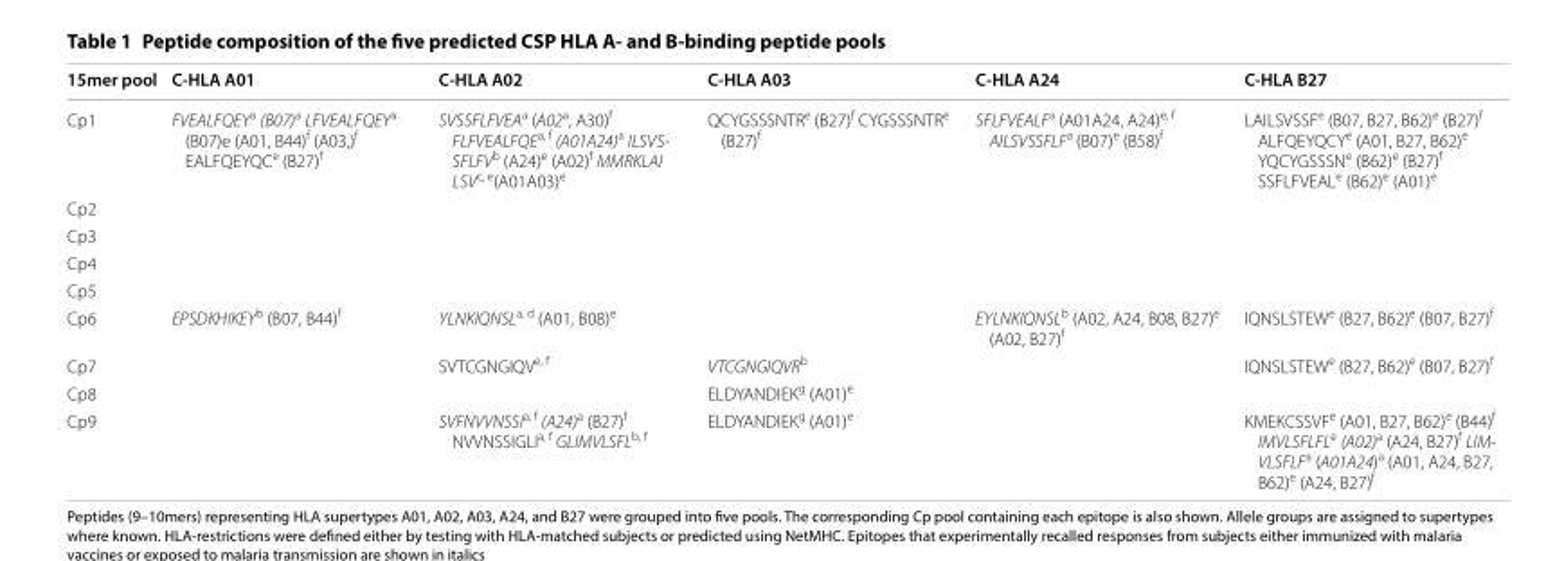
<table><thead><tr><td>15mer pool</td><td>C‑HLA A01</td><td>C‑HLA A02</td><td>C‑HLA A03</td><td>C‑HLA A24</td><td>C‑HLA B27</td></tr></thead><tbody><tr><td>Cp1</td><td>FVEALFQEY<sup>a</sup> (B07)<sup>a</sup> LFVEALFQEY<sup>a</sup> (B07)e (A01, B44)<sup>f</sup> (A03,)<sup>f</sup> EALFQEYQC<sup>e</sup> (B27)<sup>f</sup></td><td>SVSSFLFVEAa (A02a, A30)f FLFVEALFQEa, f (A01A24)a ILSVS- SFLFVb (A24)e (A02)f MMRKLAI LSVc, e(A01A03)e</td><td>QCYGSSSNTR<sup>e</sup> (B27)<sup>f</sup> CYGSSSNTR<sup>e</sup> (B27)<sup>f</sup></td><td>SFLFVEALF<sup>a</sup> (A01A24, A24)<sup>e, f</sup> AILSVSSFLF<sup>a</sup> (B07)<sup>e</sup> (B58)<sup>f</sup></td><td>LAILSVSSF<sup>e</sup> (B07, B27, B62)<sup>e</sup> (B27)<sup>f</sup> ALFQEYQCY<sup>e</sup> (A01, B27, B62)<sup>e</sup> YQCYGSSSN<sup>e</sup> (B62)<sup>e</sup> (B27)<sup>f</sup> SSFLFVEAL<sup>e</sup> (B62)<sup>e</sup> (A01)<sup>e</sup></td></tr><tr><td colspan="6">Cp2</td></tr><tr><td colspan="6">Cp3</td></tr><tr><td colspan="6">Cp4</td></tr><tr><td colspan="6">Cp5</td></tr><tr><td>Cp6</td><td>EPSDKHIKEY<sup>b</sup> (B07, B44)<sup>f</sup></td><td>YLNKIQNSL<sup>a, d</sup> (A01, B08)<sup>e</sup></td><td></td><td>EYLNKIQNSL<sup>b</sup> (A02, A24, B08, B27)<sup>e</sup> (A02, B27)<sup>f</sup></td><td>IQNSLSTEW<sup>e</sup> (B27, B62)<sup>e</sup> (B07, B27)<sup>f</sup></td></tr><tr><td>Cp7</td><td></td><td>SVTCGNGIQV<sup>e, f</sup></td><td>VTCGNGIQVR<sup>b</sup></td><td></td><td>IQNSLSTEW<sup>e</sup> (B27, B62)<sup>e</sup> (B07, B27)<sup>f</sup></td></tr><tr><td>Cp8</td><td></td><td></td><td>ELDYANDIEK<sup>g</sup> (A01)<sup>e</sup></td><td></td><td></td></tr><tr><td>Cp9</td><td></td><td>SVFNVVNSSI<sup>a, f</sup> (A24)<sup>a</sup> (B27)<sup>f</sup> NVVNSSIGLI<sup>a, f</sup> GLIMVLSFL<sup>b, f</sup></td><td>ELDYANDIEK<sup>g</sup> (A01)<sup>e</sup></td><td></td><td>KMEKCSSVFe (A01, B27, B62)e (B44)f IMVLSFLFLe (A02)a (A24, B27)f LIM- VLSFLFa (A01A24)a (A01, A24, B27, B62)e (A24, B27)f</td></tr></tbody></table>